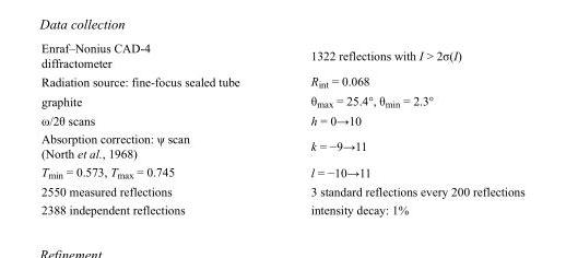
<table><tbody><tr><td>Enraf–Nonius CAD-4 diffractometer</td><td>1322 reflections with I &gt; 2σ(I)</td></tr><tr><td>Radiation source: fine-focus sealed tube</td><td>R<sub>int</sub> = 0.068</td></tr><tr><td>graphite</td><td>θ<sub>max</sub> = 25.4°, θ<sub>min</sub> = 2.3°</td></tr><tr><td>ω/2θ scans</td><td>h = 0→10</td></tr><tr><td>Absorption correction: ψ scan (North et al., 1968)</td><td>k = −9→11</td></tr><tr><td>T<sub>min</sub> = 0.573, T<sub>max</sub> = 0.745</td><td>l = −10→11</td></tr><tr><td>2550 measured reflections</td><td>3 standard reflections every 200 reflections</td></tr><tr><td>2388 independent reflections</td><td>intensity decay: 1%</td></tr></tbody></table>